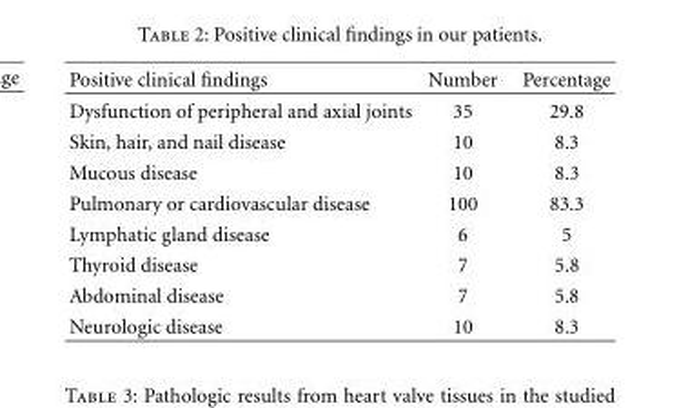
<table><thead><tr><td>Positive clinical findings</td><td>Number</td><td>Percentage</td></tr></thead><tbody><tr><td>Dysfunction of peripheral and axial joints</td><td>35</td><td>29.8</td></tr><tr><td>Skin, hair, and nail disease</td><td>10</td><td>8.3</td></tr><tr><td>Mucous disease</td><td>10</td><td>8.3</td></tr><tr><td>Pulmonary or cardiovascular disease</td><td>100</td><td>83.3</td></tr><tr><td>Lymphatic gland disease</td><td>6</td><td>5</td></tr><tr><td>Thyroid disease</td><td>7</td><td>5.8</td></tr><tr><td>Abdominal disease</td><td>7</td><td>5.8</td></tr><tr><td>Neurologic disease</td><td>10</td><td>8.3</td></tr></tbody></table>